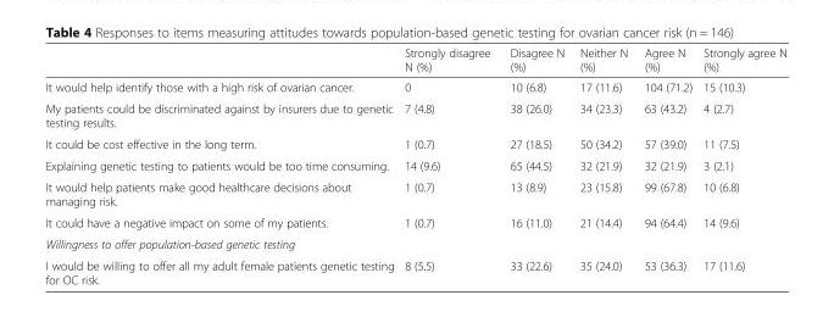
<table><thead><tr><td></td><td>Strongly disagree N (%)</td><td>Disagree N (%)</td><td>Neither N (%)</td><td>Agree N (%)</td><td>Strongly agree N (%)</td></tr></thead><tbody><tr><td>It would help identify those with a high risk of ovarian cancer.</td><td>0</td><td>10 (6.8)</td><td>17 (11.6)</td><td>104 (71.2)</td><td>15 (10.3)</td></tr><tr><td>My patients could be discriminated against by insurers due to genetic testing results.</td><td>7 (4.8)</td><td>38 (26.0)</td><td>34 (23.3)</td><td>63 (43.2)</td><td>4 (2.7)</td></tr><tr><td>It could be cost effective in the long term.</td><td>1 (0.7)</td><td>27 (18.5)</td><td>50 (34.2)</td><td>57 (39.0)</td><td>11 (7.5)</td></tr><tr><td>Explaining genetic testing to patients would be too time consuming.</td><td>14 (9.6)</td><td>65 (44.5)</td><td>32 (21.9)</td><td>32 (21.9)</td><td>3 (2.1)</td></tr><tr><td>It would help patients make good healthcare decisions about managing risk.</td><td>1 (0.7)</td><td>13 (8.9)</td><td>23 (15.8)</td><td>99 (67.8)</td><td>10 (6.8)</td></tr><tr><td>It could have a negative impact on some of my patients.</td><td>1 (0.7)</td><td>16 (11.0)</td><td>21 (14.4)</td><td>94 (64.4)</td><td>14 (9.6)</td></tr><tr><td colspan="6">Willingness to offer population-based genetic testing</td></tr><tr><td>I would be willing to offer all my adult female patients genetic testing for OC risk.</td><td>8 (5.5)</td><td>33 (22.6)</td><td>35 (24.0)</td><td>53 (36.3)</td><td>17 (11.6)</td></tr></tbody></table>